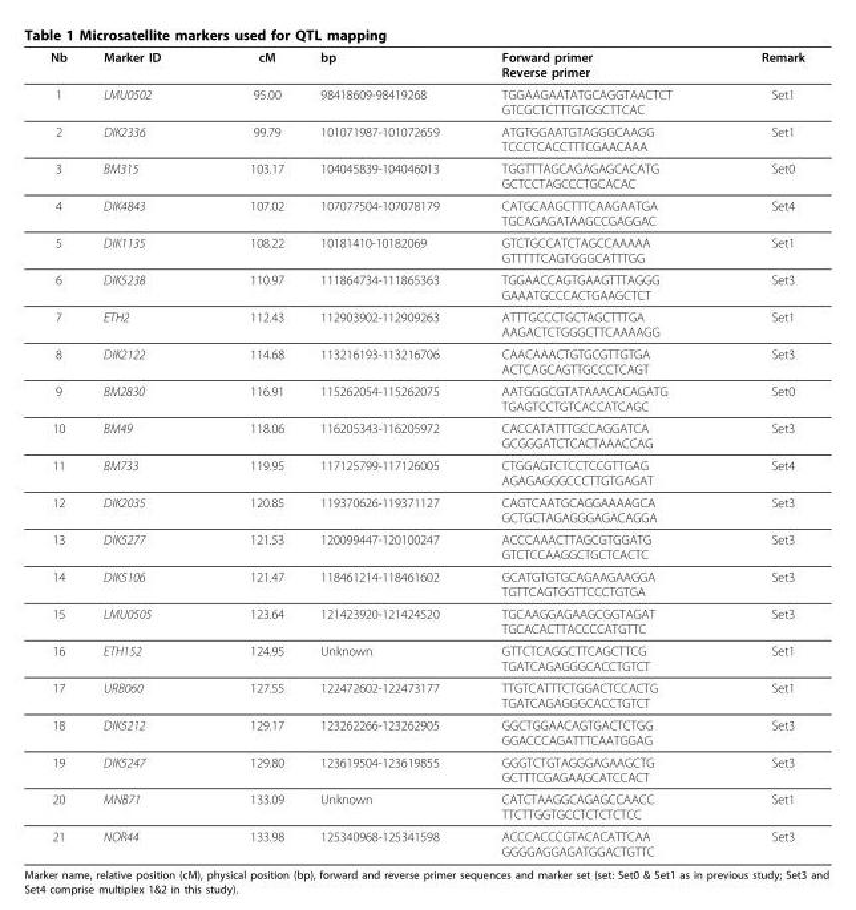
<table><thead><tr><td>Nb</td><td>Marker ID</td><td>cM</td><td>bp</td><td>Forward primer Reverse primer</td><td>Remark</td></tr></thead><tbody><tr><td>1</td><td>LMU0502</td><td>95.00</td><td>98418609-98419268</td><td>TGGAAGAATATGCAGGTAACTCT GTCGCTCTTTGTGGCTTCAC</td><td>Set1</td></tr><tr><td>2</td><td>DIK2336</td><td>99.79</td><td>101071987-101072659</td><td>ATGTGGAATGTAGGGCAAGG TCCCTCACCTTTCGAACAAA</td><td>Set1</td></tr><tr><td>3</td><td>BM315</td><td>103.17</td><td>104045839-104046013</td><td>TGGTTTAGCAGAGAGCACATG GCTCCTAGCCCTGCACAC</td><td>Set0</td></tr><tr><td>4</td><td>DIK4843</td><td>107.02</td><td>107077504-107078179</td><td>CATGCAAGCTTTCAAGAATGA TGCAGAGATAAGCCGAGGAC</td><td>Set4</td></tr><tr><td>5</td><td>DIK1135</td><td>108.22</td><td>10181410-10182069</td><td>GTCTGCCATCTAGCCAAAAA GTTTTTCAGTGGGCATTTGG</td><td>Set1</td></tr><tr><td>6</td><td>DIK5238</td><td>110.97</td><td>111864734-111865363</td><td>TGGAACCAGTGAAGTTTAGGG GAAATGCCCACTGAAGCTCT</td><td>Set3</td></tr><tr><td>7</td><td>ETH2</td><td>112.43</td><td>112903902-112909263</td><td>ATTTGCCCTGCTAGCTTTGA AAGACTCTGGGCTTCAAAAGG</td><td>Set1</td></tr><tr><td>8</td><td>DIK2122</td><td>114.68</td><td>113216193-113216706</td><td>CAACAAACTGTGCGTTGTGA ACTCAGCAGTTGCCCTCAGT</td><td>Set3</td></tr><tr><td>9</td><td>BM2830</td><td>116.91</td><td>115262054-115262075</td><td>AATGGGCGTATAAACACAGATG TGAGTCCTGTCACCATCAGC</td><td>Set0</td></tr><tr><td>10</td><td>BM49</td><td>118.06</td><td>116205343-116205972</td><td>CACCATATTTGCCAGGATCA GCGGGATCTCACTAAACCAG</td><td>Set3</td></tr><tr><td>11</td><td>BM733</td><td>119.95</td><td>117125799-117126005</td><td>CTGGAGTCTCCTCCGTTGAG AGAGAGGGCCCTTGTGAGAT</td><td>Set4</td></tr><tr><td>12</td><td>DIK2035</td><td>120.85</td><td>119370626-119371127</td><td>CAGTCAATGCAGGAAAAGCA GCTGCTAGAGGGAGACAGGA</td><td>Set3</td></tr><tr><td>13</td><td>DIK5277</td><td>121.53</td><td>120099447-120100247</td><td>ACCCAAACTTAGCGTGGATG GTCTCCAAGGCTGCTCACTC</td><td>Set3</td></tr><tr><td>14</td><td>DIK5106</td><td>121.47</td><td>118461214-118461602</td><td>GCATGTGTGCAGAAGAAGGA TGTTCAGTGGTTCCCTGTGA</td><td>Set3</td></tr><tr><td>15</td><td>LMU0505</td><td>123.64</td><td>121423920-121424520</td><td>TGCAAGGAGAAGCGGTAGAT TGCACACTTACCCCATGTTC</td><td>Set3</td></tr><tr><td>16</td><td>ETH152</td><td>124.95</td><td>Unknown</td><td>GTTCTCAGGCTTCAGCTTCG TGATCAGAGGGCACCTGTCT</td><td>Set1</td></tr><tr><td>17</td><td>URB060</td><td>127.55</td><td>122472602-122473177</td><td>TTGTCATTTCTGGACTCCACTG TGATCAGAGGGCACCTGTCT</td><td>Set1</td></tr><tr><td>18</td><td>DIK5212</td><td>129.17</td><td>123262266-123262905</td><td>GGCTGGAACAGTGACTCTGG GGACCCAGATTTCAATGGAG</td><td>Set3</td></tr><tr><td>19</td><td>DIK5247</td><td>129.80</td><td>123619504-123619855</td><td>GGGTCTGTAGGGAGAAGCTG GCTTTCGAGAAGCATCCACT</td><td>Set3</td></tr><tr><td>20</td><td>MNB71</td><td>133.09</td><td>Unknown</td><td>CATCTAAGGCAGAGCCAACC TTCTTGGTGCCTCTCTCTCC</td><td>Set1</td></tr><tr><td>21</td><td>NOR44</td><td>133.98</td><td>125340968-125341598</td><td>ACCCACCCGTACACATTCAA GGGGAGGAGATGGACTGTTC</td><td>Set3</td></tr></tbody></table>